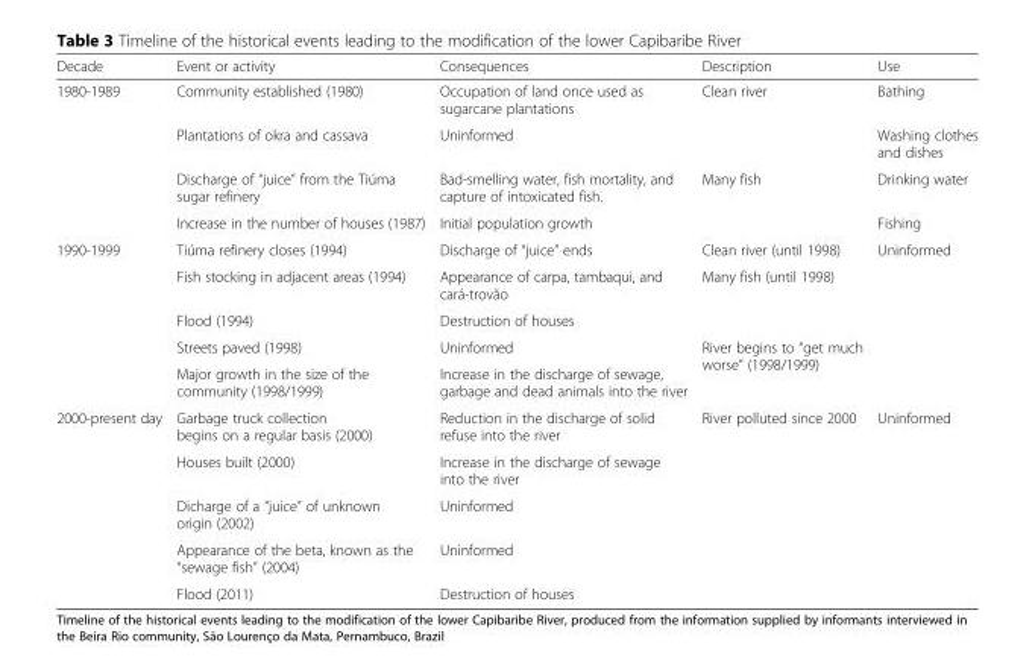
<table><thead><tr><td>Decade</td><td>Event or activity</td><td>Consequences</td><td>Description</td><td>Use</td></tr></thead><tbody><tr><td rowspan="4">1980-1989</td><td>Community established (1980)</td><td>Occupation of land once used as sugarcane plantations</td><td rowspan="2">Clean river</td><td>Bathing</td></tr><tr><td>Plantations of okra and cassava</td><td>Uninformed</td><td>Washing clothes and dishes</td></tr><tr><td>Discharge of “juice” from the Tiúma sugar refinery</td><td>Bad-smelling water, fish mortality, and capture of intoxicated fish.</td><td rowspan="2">Many fish</td><td>Drinking water</td></tr><tr><td>Increase in the number of houses (1987)</td><td>Initial population growth</td><td>Fishing</td></tr><tr><td rowspan="5">1990-1999</td><td>Tiúma refinery closes (1994)</td><td>Discharge of “juice” ends</td><td>Clean river (until 1998)</td><td rowspan="3">Uninformed</td></tr><tr><td>Fish stocking in adjacent areas (1994)</td><td>Appearance of carpa, tambaqui, and cará-trovão</td><td rowspan="2">Many fish (until 1998)</td></tr><tr><td>Flood (1994)</td><td>Destruction of houses</td></tr><tr><td>Streets paved (1998)</td><td>Uninformed</td><td rowspan="2">River begins to “get much worse” (1998/1999)</td><td rowspan="2"></td></tr><tr><td>Major growth in the size of the community (1998/1999)</td><td>Increase in the discharge of sewage, garbage and dead animals into the river</td></tr><tr><td rowspan="5">2000-present day</td><td>Garbage truck collection begins on a regular basis (2000)</td><td>Reduction in the discharge of solid refuse into the river</td><td rowspan="5">River polluted since 2000</td><td rowspan="5">Uninformed</td></tr><tr><td>Houses built (2000)</td><td>Increase in the discharge of sewage into the river</td></tr><tr><td>Dicharge of a “juice” of unknown origin (2002)</td><td>Uninformed</td></tr><tr><td>Appearance of the beta, known as the “sewage fish” (2004)</td><td>Uninformed</td></tr><tr><td>Flood (2011)</td><td>Destruction of houses</td></tr></tbody></table>